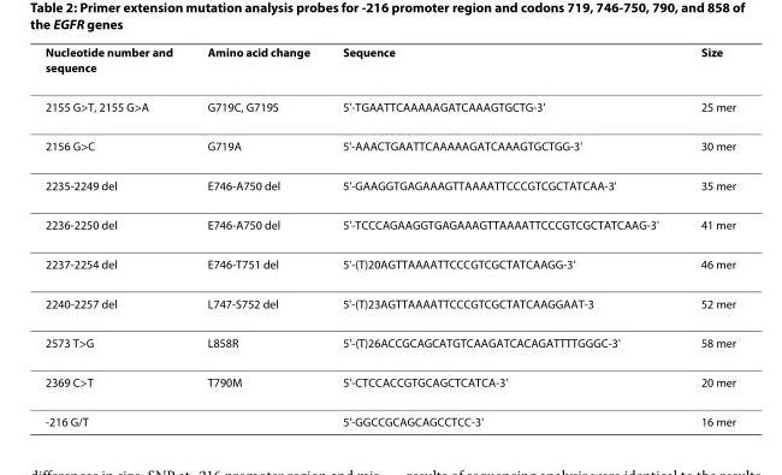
<table><thead><tr><td>Nucleotide number and sequence</td><td>Amino acid change</td><td>Sequence</td><td>Size</td></tr></thead><tbody><tr><td>2155 G&gt;T, 2155 G&gt;A</td><td>G719C, G719S</td><td>5&#x27;-TGAATTCAAAAAGATCAAAGTGCTG-3&#x27;</td><td>25 mer</td></tr><tr><td>2156 G&gt;C</td><td>G719A</td><td>5&#x27;-AAACTGAATTCAAAAAGATCAAAGTGCTGG-3&#x27;</td><td>30 mer</td></tr><tr><td>2235-2249 del</td><td>E746-A750 del</td><td>5&#x27;-GAAGGTGAGAAAGTTAAAATTCCCGTCGCTATCAA-3&#x27;</td><td>35 mer</td></tr><tr><td>2236-2250 del</td><td>E746-A750 del</td><td>5&#x27;-TCCCAGAAGGTGAGAAAGTTAAAATTCCCGTCGCTATCAAG-3&#x27;</td><td>41 mer</td></tr><tr><td>2237-2254 del</td><td>E746-T751 del</td><td>5&#x27;-(T)20AGTTAAAATTCCCGTCGCTATCAAGG-3&#x27;</td><td>46 mer</td></tr><tr><td>2240-2257 del</td><td>L747-S752 del</td><td>5&#x27;-(T)23AGTTAAAATTCCCGTCGCTATCAAGGAAT-3</td><td>52 mer</td></tr><tr><td>2573 T&gt;G</td><td>L858R</td><td>5&#x27;-(T)26ACCGCAGCATGTCAAGATCACAGATTTTGGGC-3&#x27;</td><td>58 mer</td></tr><tr><td>2369 C&gt;T</td><td>T790M</td><td>5&#x27;-CTCCACCGTGCAGCTCATCA-3&#x27;</td><td>20 mer</td></tr><tr><td>-216 G/T</td><td></td><td>5&#x27;-GGCCGCAGCAGCCTCC-3&#x27;</td><td>16 mer</td></tr></tbody></table>